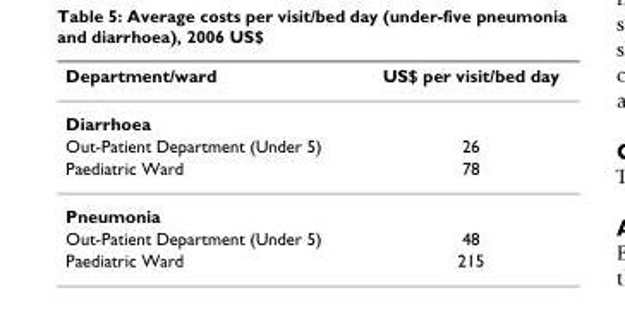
<table><thead><tr><td>Department/ward</td><td>US$ per visit/bed day</td></tr></thead><tbody><tr><td colspan="2">Diarrhoea</td></tr><tr><td>Out-Patient Department (Under 5)</td><td>26</td></tr><tr><td>Paediatric Ward</td><td>78</td></tr><tr><td colspan="2">Pneumonia</td></tr><tr><td>Out-Patient Department (Under 5)</td><td>48</td></tr><tr><td>Paediatric Ward</td><td>215</td></tr></tbody></table>